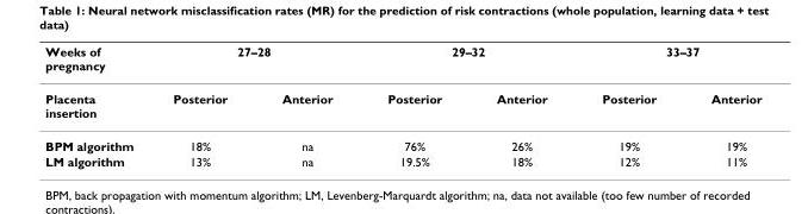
<table><thead><tr><td rowspan="2">Weeks of pregnancy Placenta insertion</td><td colspan="2">27–28</td><td colspan="2">29–32</td><td colspan="2">33–37</td></tr><tr><td>Posterior</td><td>Anterior</td><td>Posterior</td><td>Anterior</td><td>Posterior</td><td>Anterior</td></tr></thead><tbody><tr><td>BPM algorithm</td><td>18%</td><td>na</td><td>76%</td><td>26%</td><td>19%</td><td>19%</td></tr><tr><td>LM algorithm</td><td>13%</td><td>na</td><td>19.5%</td><td>18%</td><td>12%</td><td>11%</td></tr></tbody></table>